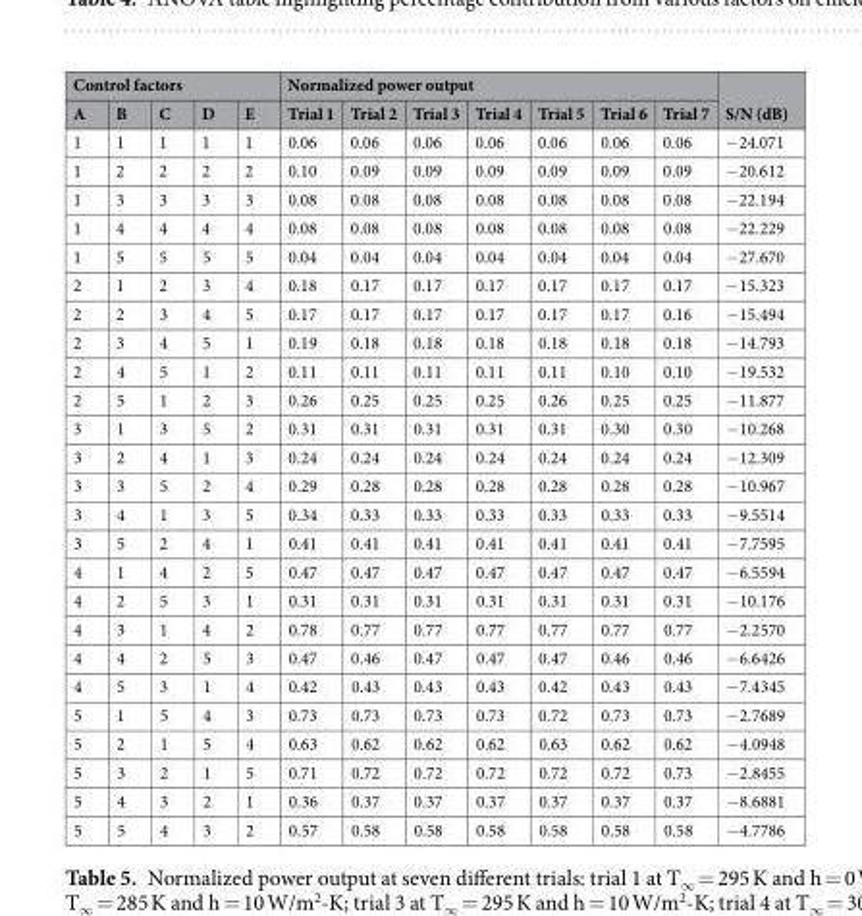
<table><thead><tr><td colspan="5">Control factors</td><td colspan="7">Normalized power output</td><td rowspan="2">S/N (dB)</td></tr><tr><td>A</td><td>B</td><td>C</td><td>D</td><td>E</td><td>Trial 1</td><td>Trial 2</td><td>Trial 3</td><td>Trial 4</td><td>Trial 5</td><td>Trial 6</td><td>Trial 7</td></tr></thead><tbody><tr><td>1</td><td>1</td><td>1</td><td>1</td><td>1</td><td>0.06</td><td>0.06</td><td>0.06</td><td>0.06</td><td>0.06</td><td>0.06</td><td>0.06</td><td>−24.071</td></tr><tr><td>1</td><td>2</td><td>2</td><td>2</td><td>2</td><td>0.10</td><td>0.09</td><td>0.09</td><td>0.09</td><td>0.09</td><td>0.09</td><td>0.09</td><td>−20.612</td></tr><tr><td>1</td><td>3</td><td>3</td><td>3</td><td>3</td><td>0.08</td><td>0.08</td><td>0.08</td><td>0.08</td><td>0.08</td><td>0.08</td><td>0.08</td><td>−22.194</td></tr><tr><td>1</td><td>4</td><td>4</td><td>4</td><td>4</td><td>0.08</td><td>0.08</td><td>0.08</td><td>0.08</td><td>0.08</td><td>0.08</td><td>0.08</td><td>−22.229</td></tr><tr><td>1</td><td>5</td><td>5</td><td>5</td><td>5</td><td>0.04</td><td>0.04</td><td>0.04</td><td>0.04</td><td>0.04</td><td>0.04</td><td>0.04</td><td>−27.670</td></tr><tr><td>2</td><td>1</td><td>2</td><td>3</td><td>4</td><td>0.18</td><td>0.17</td><td>0.17</td><td>0.17</td><td>0.17</td><td>0.17</td><td>0.17</td><td>−15.323</td></tr><tr><td>2</td><td>2</td><td>3</td><td>4</td><td>5</td><td>0.17</td><td>0.17</td><td>0.17</td><td>0.17</td><td>0.17</td><td>0.17</td><td>0.16</td><td>−15.494</td></tr><tr><td>2</td><td>3</td><td>4</td><td>5</td><td>1</td><td>0.19</td><td>0.18</td><td>0.18</td><td>0.18</td><td>0.18</td><td>0.18</td><td>0.18</td><td>−14.793</td></tr><tr><td>2</td><td>4</td><td>5</td><td>1</td><td>2</td><td>0.11</td><td>0.11</td><td>0.11</td><td>0.11</td><td>0.11</td><td>0.10</td><td>0.10</td><td>−19.532</td></tr><tr><td>2</td><td>5</td><td>1</td><td>2</td><td>3</td><td>0.26</td><td>0.25</td><td>0.25</td><td>0.25</td><td>0.26</td><td>0.25</td><td>0.25</td><td>−11.877</td></tr><tr><td>3</td><td>1</td><td>3</td><td>5</td><td>2</td><td>0.31</td><td>0.31</td><td>0.31</td><td>0.31</td><td>0.31</td><td>0.30</td><td>0.30</td><td>−10.268</td></tr><tr><td>3</td><td>2</td><td>4</td><td>1</td><td>3</td><td>0.24</td><td>0.24</td><td>0.24</td><td>0.24</td><td>0.24</td><td>0.24</td><td>0.24</td><td>−12.309</td></tr><tr><td>3</td><td>3</td><td>5</td><td>2</td><td>4</td><td>0.29</td><td>0.28</td><td>0.28</td><td>0.28</td><td>0.28</td><td>0.28</td><td>0.28</td><td>−10.967</td></tr><tr><td>3</td><td>4</td><td>1</td><td>3</td><td>5</td><td>0.34</td><td>0.33</td><td>0.33</td><td>0.33</td><td>0.33</td><td>0.33</td><td>0.33</td><td>−9.5514</td></tr><tr><td>3</td><td>5</td><td>2</td><td>4</td><td>1</td><td>0.41</td><td>0.41</td><td>0.41</td><td>0.41</td><td>0.41</td><td>0.41</td><td>0.41</td><td>−7.7595</td></tr><tr><td>4</td><td>1</td><td>4</td><td>2</td><td>5</td><td>0.47</td><td>0.47</td><td>0.47</td><td>0.47</td><td>0.47</td><td>0.47</td><td>0.47</td><td>−6.5594</td></tr><tr><td>4</td><td>2</td><td>5</td><td>3</td><td>1</td><td>0.31</td><td>0.31</td><td>0.31</td><td>0.31</td><td>0.31</td><td>0.31</td><td>0.31</td><td>−10.176</td></tr><tr><td>4</td><td>3</td><td>1</td><td>4</td><td>2</td><td>0.78</td><td>0.77</td><td>0.77</td><td>0.77</td><td>0.77</td><td>0.77</td><td>0.77</td><td>−2.2570</td></tr><tr><td>4</td><td>4</td><td>2</td><td>5</td><td>3</td><td>0.47</td><td>0.46</td><td>0.47</td><td>0.47</td><td>0.47</td><td>0.46</td><td>0.46</td><td>−6.6426</td></tr><tr><td>4</td><td>5</td><td>3</td><td>1</td><td>4</td><td>0.42</td><td>0.43</td><td>0.43</td><td>0.43</td><td>0.42</td><td>0.43</td><td>0.43</td><td>−7.4345</td></tr><tr><td>5</td><td>1</td><td>5</td><td>4</td><td>3</td><td>0.73</td><td>0.73</td><td>0.73</td><td>0.73</td><td>0.72</td><td>0.73</td><td>0.73</td><td>−2.7689</td></tr><tr><td>5</td><td>2</td><td>1</td><td>5</td><td>4</td><td>0.63</td><td>0.62</td><td>0.62</td><td>0.62</td><td>0.63</td><td>0.62</td><td>0.62</td><td>−4.0948</td></tr><tr><td>5</td><td>3</td><td>2</td><td>1</td><td>5</td><td>0.71</td><td>0.72</td><td>0.72</td><td>0.72</td><td>0.72</td><td>0.72</td><td>0.73</td><td>−2.8455</td></tr><tr><td>5</td><td>4</td><td>3</td><td>2</td><td>1</td><td>0.36</td><td>0.37</td><td>0.37</td><td>0.37</td><td>0.37</td><td>0.37</td><td>0.37</td><td>−8.6881</td></tr><tr><td>5</td><td>5</td><td>4</td><td>3</td><td>2</td><td>0.57</td><td>0.58</td><td>0.58</td><td>0.58</td><td>0.58</td><td>0.58</td><td>0.58</td><td>−4.7786</td></tr></tbody></table>